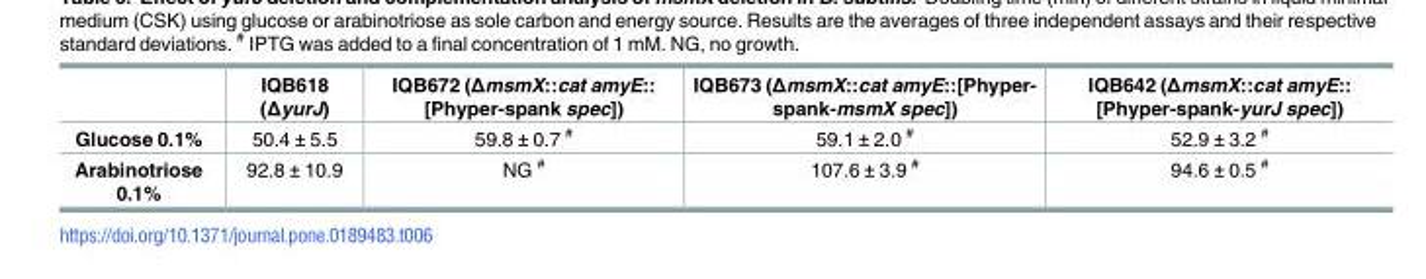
<table><thead><tr><td></td><td>IQB618 (ΔyurJ)</td><td>IQB672 (ΔmsmX::cat amyE:: [Phyper-spank spec])</td><td>IQB673 (ΔmsmX::cat amyE::[Phyper- spank-msmX spec])</td><td>IQB642 (ΔmsmX::cat amyE:: [Phyper-spank-yurJ spec])</td></tr></thead><tbody><tr><td>Glucose 0.1%</td><td>50.4 ± 5.5</td><td>59.8 ± 0.7 <sup>#</sup></td><td>59.1 ± 2.0 <sup>#</sup></td><td>52.9 ± 3.2 <sup>#</sup></td></tr><tr><td>Arabinotriose 0.1%</td><td>92.8 ± 10.9</td><td>NG <sup>#</sup></td><td>107.6 ± 3.9 <sup>#</sup></td><td>94.6 ± 0.5 <sup>#</sup></td></tr></tbody></table>